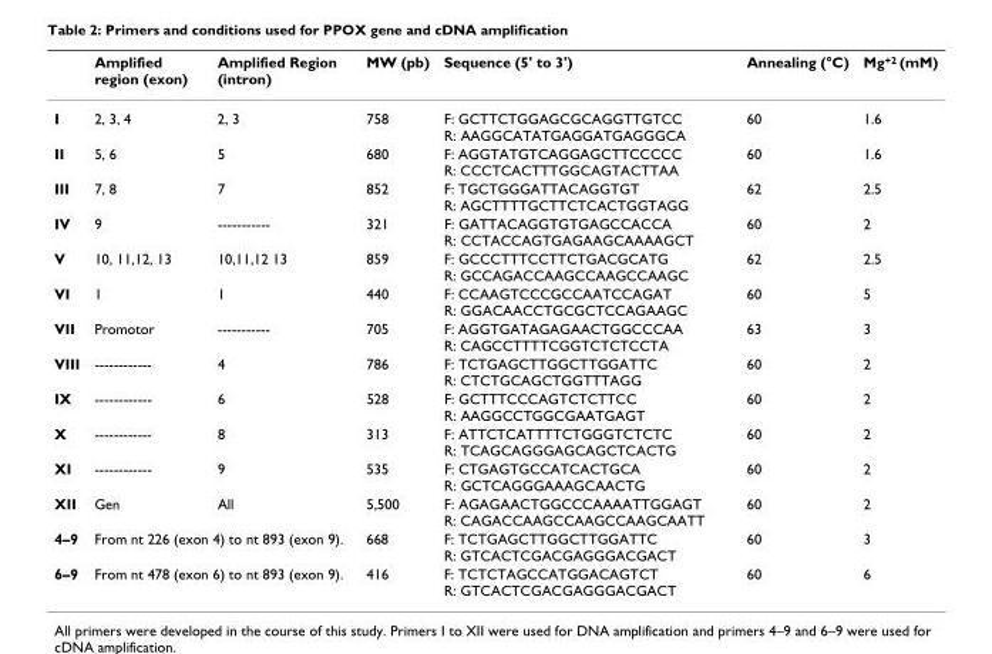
<table><thead><tr><td></td><td>Amplified region (exon)</td><td>Amplified Region (intron)</td><td>MW (pb)</td><td>Sequence (5&#x27; to 3&#x27;)</td><td>Annealing (°C)</td><td>Mg<sup>+2</sup> (mM)</td></tr></thead><tbody><tr><td>I</td><td>2, 3, 4</td><td>2, 3</td><td>758</td><td>F: GCTTCTGGAGCGCAGGTTGTCC R: AAGGCATATGAGGATGAGGGCA</td><td>60</td><td>1.6</td></tr><tr><td>II</td><td>5, 6</td><td>5</td><td>680</td><td>F: AGGTATGTCAGGAGCTTCCCCC R: CCCTCACTTTGGCAGTACTTAA</td><td>60</td><td>1.6</td></tr><tr><td>III</td><td>7, 8</td><td>7</td><td>852</td><td>F: TGCTGGGATTACAGGTGT R: AGCTTTTGCTTCTCACTGGTAGG</td><td>62</td><td>2.5</td></tr><tr><td>IV</td><td>9</td><td>-----------</td><td>321</td><td>F: GATTACAGGTGTGAGCCACCA R: CCTACCAGTGAGAAGCAAAAGCT</td><td>60</td><td>2</td></tr><tr><td>V</td><td>10, 11,12, 13</td><td>10,11,12 13</td><td>859</td><td>F: GCCCTTTCCTTCTGACGCATG R: GCCAGACCAAGCCAAGCCAAGC</td><td>62</td><td>2.5</td></tr><tr><td>VI</td><td>1</td><td>1</td><td>440</td><td>F: CCAAGTCCCGCCAATCCAGAT R: GGACAACCTGCGCTCCAGAAGC</td><td>60</td><td>5</td></tr><tr><td>VII</td><td>Promotor</td><td>-----------</td><td>705</td><td>F: AGGTGATAGAGAACTGGCCCAA R: CAGCCTTTTCGGTCTCTCCTA</td><td>63</td><td>3</td></tr><tr><td>VIII</td><td>------------</td><td>4</td><td>786</td><td>F: TCTGAGCTTGGCTTGGATTC R: CTCTGCAGCTGGTTTAGG</td><td>60</td><td>2</td></tr><tr><td>IX</td><td>------------</td><td>6</td><td>528</td><td>F: GCTTTCCCAGTCTCTTCC R: AAGGCCTGGCGAATGAGT</td><td>60</td><td>2</td></tr><tr><td>X</td><td>------------</td><td>8</td><td>313</td><td>F: ATTCTCATTTTCTGGGTCTCTC R: TCAGCAGGGAGCAGCTCACTG</td><td>60</td><td>2</td></tr><tr><td>XI</td><td>------------</td><td>9</td><td>535</td><td>F: CTGAGTGCCATCACTGCA R: GCTCAGGGAAAGCAACTG</td><td>60</td><td>2</td></tr><tr><td>XII</td><td>Gen</td><td>All</td><td>5,500</td><td>F: AGAGAACTGGCCCAAAATTGGAGT R: CAGACCAAGCCAAGCCAAGCAATT</td><td>60</td><td>2</td></tr><tr><td>4–9</td><td colspan="2">From nt 226 (exon 4) to nt 893 (exon 9).</td><td>668</td><td>F: TCTGAGCTTGGCTTGGATTC R: GTCACTCGACGAGGGACGACT</td><td>60</td><td>3</td></tr><tr><td>6–9</td><td colspan="2">From nt 478 (exon 6) to nt 893 (exon 9).</td><td>416</td><td>F: TCTCTAGCCATGGACAGTCT R: GTCACTCGACGAGGGACGACT</td><td>60</td><td>6</td></tr></tbody></table>